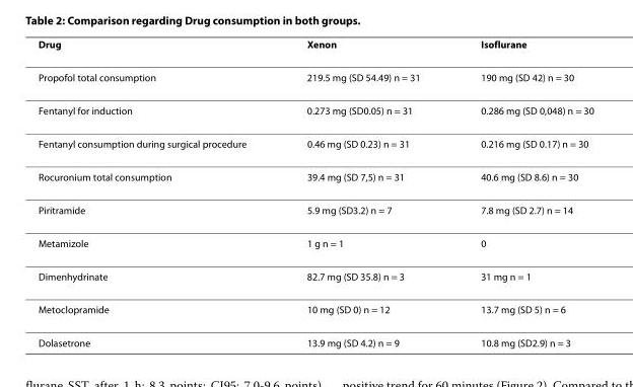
<table><thead><tr><td>Drug</td><td>Xenon</td><td>Isoflurane</td></tr></thead><tbody><tr><td>Propofol total consumption</td><td>219.5 mg (SD 54.49) n = 31</td><td>190 mg (SD 42) n = 30</td></tr><tr><td>Fentanyl for induction</td><td>0.273 mg (SD0.05) n = 31</td><td>0.286 mg (SD 0,048) n = 30</td></tr><tr><td>Fentanyl consumption during surgical procedure</td><td>0.46 mg (SD 0.23) n = 31</td><td>0.216 mg (SD 0.17) n = 30</td></tr><tr><td>Rocuronium total consumption</td><td>39.4 mg (SD 7,5) n = 31</td><td>40.6 mg (SD 8.6) n = 30</td></tr><tr><td>Piritramide</td><td>5.9 mg (SD3.2) n = 7</td><td>7.8 mg (SD 2.7) n = 14</td></tr><tr><td>Metamizole</td><td>1 g n = 1</td><td>0</td></tr><tr><td>Dimenhydrinate</td><td>82.7 mg (SD 35.8) n = 3</td><td>31 mg n = 1</td></tr><tr><td>Metoclopramide</td><td>10 mg (SD 0) n = 12</td><td>13.7 mg (SD 5) n = 6</td></tr><tr><td>Dolasetrone</td><td>13.9 mg (SD 4.2) n = 9</td><td>10.8 mg (SD2.9) n = 3</td></tr></tbody></table>